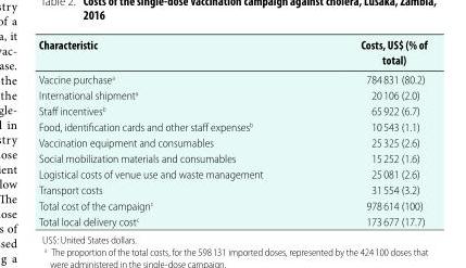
<table><thead><tr><td>Characteristic</td><td>Costs, US$ (% of total)</td></tr></thead><tbody><tr><td>Vaccine purchase<sup>a</sup></td><td>784 831 (80.2)</td></tr><tr><td>International shipment<sup>a</sup></td><td>20 106 (2.0)</td></tr><tr><td>Staff incentives<sup>b</sup></td><td>65 922 (6.7)</td></tr><tr><td>Food, identification cards and other staff expenses<sup>b</sup></td><td>10 543 (1.1)</td></tr><tr><td>Vaccination equipment and consumables</td><td>25 325 (2.6)</td></tr><tr><td>Social mobilization materials and consumables</td><td>15 252 (1.6)</td></tr><tr><td>Logistical costs of venue use and waste management</td><td>25 081 (2.6)</td></tr><tr><td>Transport costs</td><td>31 554 (3.2)</td></tr><tr><td>Total cost of the campaign<sup>c</sup></td><td>978 614 (100)</td></tr><tr><td>Total local delivery cost<sup>c</sup></td><td>173 677 (17.7)</td></tr></tbody></table>